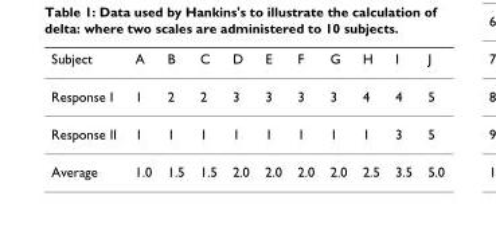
<table><thead><tr><td>Subject</td><td>A</td><td>B</td><td>C</td><td>D</td><td>E</td><td>F</td><td>G</td><td>H</td><td>I</td><td>J</td></tr></thead><tbody><tr><td>Response I</td><td>1</td><td>2</td><td>2</td><td>3</td><td>3</td><td>3</td><td>3</td><td>4</td><td>4</td><td>5</td></tr><tr><td>Response II</td><td>1</td><td>1</td><td>1</td><td>1</td><td>1</td><td>1</td><td>1</td><td>1</td><td>3</td><td>5</td></tr><tr><td>Average</td><td>1.0</td><td>1.5</td><td>1.5</td><td>2.0</td><td>2.0</td><td>2.0</td><td>2.0</td><td>2.5</td><td>3.5</td><td>5.0</td></tr></tbody></table>